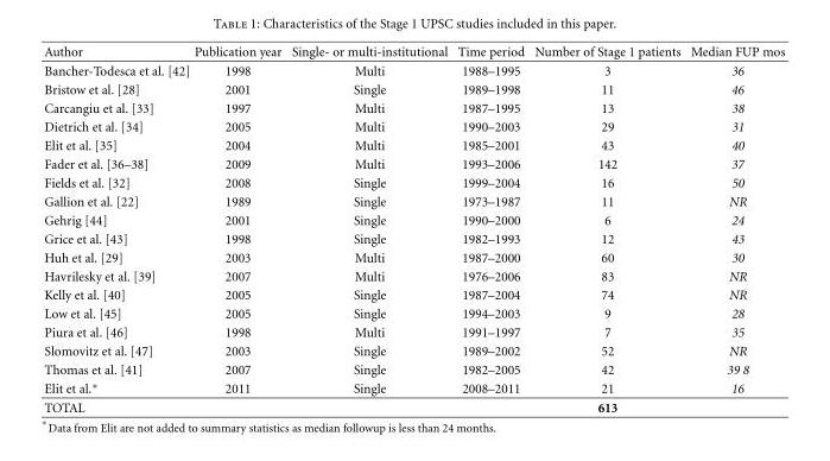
<table><thead><tr><td>Author</td><td>Publication year</td><td>Single- or multi-institutional</td><td>Time period</td><td>Number of Stage 1 patients</td><td>Median FUP mos</td></tr></thead><tbody><tr><td>Bancher-Todesca et al. [42]</td><td>1998</td><td>Multi</td><td>1988–1995</td><td>3</td><td>36</td></tr><tr><td>Bristow et al. [28]</td><td>2001</td><td>Single</td><td>1989–1998</td><td>11</td><td>46</td></tr><tr><td>Carcangiu et al. [33]</td><td>1997</td><td>Multi</td><td>1987–1995</td><td>13</td><td>38</td></tr><tr><td>Dietrich et al. [34]</td><td>2005</td><td>Multi</td><td>1990–2003</td><td>29</td><td>31</td></tr><tr><td>Elit et al. [35]</td><td>2004</td><td>Multi</td><td>1985–2001</td><td>43</td><td>40</td></tr><tr><td>Fader et al. [36–38]</td><td>2009</td><td>Multi</td><td>1993–2006</td><td>142</td><td>37</td></tr><tr><td>Fields et al. [32]</td><td>2008</td><td>Single</td><td>1999–2004</td><td>16</td><td>50</td></tr><tr><td>Gallion et al. [22]</td><td>1989</td><td>Single</td><td>1973–1987</td><td>11</td><td>NR</td></tr><tr><td>Gehrig [44]</td><td>2001</td><td>Single</td><td>1990–2000</td><td>6</td><td>24</td></tr><tr><td>Grice et al. [43]</td><td>1998</td><td>Single</td><td>1982–1993</td><td>12</td><td>43</td></tr><tr><td>Huh et al. [29]</td><td>2003</td><td>Multi</td><td>1987–2000</td><td>60</td><td>30</td></tr><tr><td>Havrilesky et al. [39]</td><td>2007</td><td>Multi</td><td>1976–2006</td><td>83</td><td>NR</td></tr><tr><td>Kelly et al. [40]</td><td>2005</td><td>Single</td><td>1987–2004</td><td>74</td><td>NR</td></tr><tr><td>Low et al. [45]</td><td>2005</td><td>Single</td><td>1994–2003</td><td>9</td><td>28</td></tr><tr><td>Piura et al. [46]</td><td>1998</td><td>Multi</td><td>1991–1997</td><td>7</td><td>35</td></tr><tr><td>Slomovitz et al. [47]</td><td>2003</td><td>Single</td><td>1989–2002</td><td>52</td><td>NR</td></tr><tr><td>Thomas et al. [41]</td><td>2007</td><td>Single</td><td>1982–2005</td><td>42</td><td>39 8</td></tr><tr><td>Elit et al.∗</td><td>2011</td><td>Single</td><td>2008–2011</td><td>21</td><td>16</td></tr><tr><td>TOTAL</td><td></td><td></td><td></td><td>613</td><td></td></tr></tbody></table>